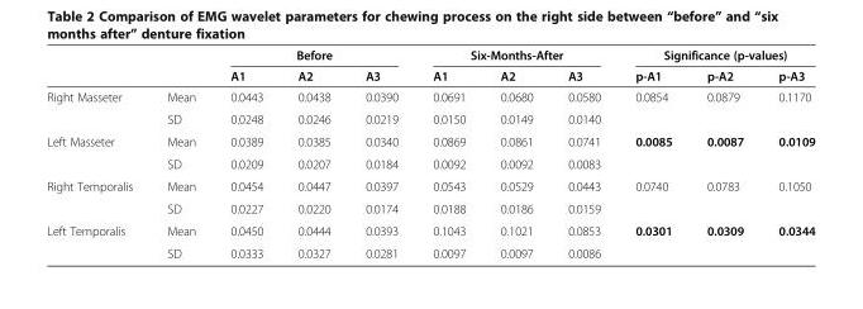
<table><thead><tr><td rowspan="2"></td><td rowspan="2"></td><td colspan="3">Before</td><td colspan="3">Six-Months-After</td><td colspan="3">Significance (p-values)</td></tr><tr><td>A1</td><td>A2</td><td>A3</td><td>A1</td><td>A2</td><td>A3</td><td>p-A1</td><td>p-A2</td><td>p-A3</td></tr></thead><tbody><tr><td rowspan="2">Right Masseter</td><td>Mean</td><td>0.0443</td><td>0.0438</td><td>0.0390</td><td>0.0691</td><td>0.0680</td><td>0.0580</td><td rowspan="2">0.0854</td><td rowspan="2">0.0879</td><td rowspan="2">0.1170</td></tr><tr><td>SD</td><td>0.0248</td><td>0.0246</td><td>0.0219</td><td>0.0150</td><td>0.0149</td><td>0.0140</td></tr><tr><td rowspan="2">Left Masseter</td><td>Mean</td><td>0.0389</td><td>0.0385</td><td>0.0340</td><td>0.0869</td><td>0.0861</td><td>0.0741</td><td rowspan="2">0.0085</td><td rowspan="2">0.0087</td><td rowspan="2">0.0109</td></tr><tr><td>SD</td><td>0.0209</td><td>0.0207</td><td>0.0184</td><td>0.0092</td><td>0.0092</td><td>0.0083</td></tr><tr><td rowspan="2">Right Temporalis</td><td>Mean</td><td>0.0454</td><td>0.0447</td><td>0.0397</td><td>0.0543</td><td>0.0529</td><td>0.0443</td><td rowspan="2">0.0740</td><td rowspan="2">0.0783</td><td rowspan="2">0.1050</td></tr><tr><td>SD</td><td>0.0227</td><td>0.0220</td><td>0.0174</td><td>0.0188</td><td>0.0186</td><td>0.0159</td></tr><tr><td rowspan="2">Left Temporalis</td><td>Mean</td><td>0.0450</td><td>0.0444</td><td>0.0393</td><td>0.1043</td><td>0.1021</td><td>0.0853</td><td>0.0301</td><td>0.0309</td><td>0.0344</td></tr><tr><td>SD</td><td>0.0333</td><td>0.0327</td><td>0.0281</td><td>0.0097</td><td>0.0097</td><td>0.0086</td><td></td><td></td><td></td></tr></tbody></table>